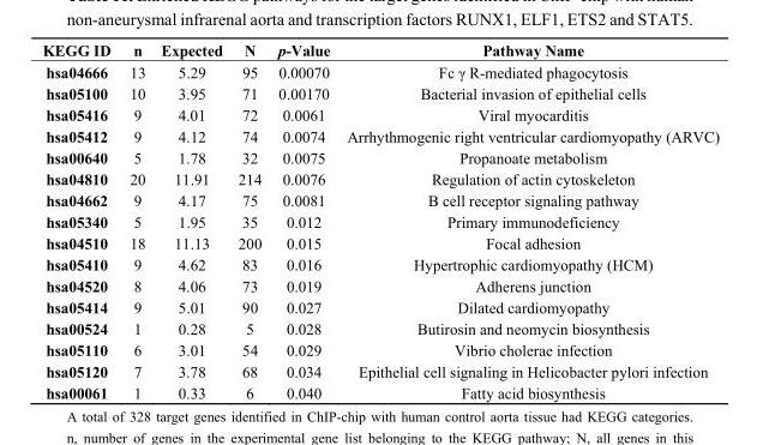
<table><thead><tr><td>KEGG ID</td><td>n</td><td>Expected</td><td>N</td><td>p-Value</td><td>Pathway Name</td></tr></thead><tbody><tr><td>hsa04666</td><td>13</td><td>5.29</td><td>95</td><td>0.00070</td><td>Fc γ R-mediated phagocytosis</td></tr><tr><td>hsa05100</td><td>10</td><td>3.95</td><td>71</td><td>0.00170</td><td>Bacterial invasion of epithelial cells</td></tr><tr><td>hsa05416</td><td>9</td><td>4.01</td><td>72</td><td>0.0061</td><td>Viral myocarditis</td></tr><tr><td>hsa05412</td><td>9</td><td>4.12</td><td>74</td><td>0.0074</td><td>Arrhythmogenic right ventricular cardiomyopathy (ARVC)</td></tr><tr><td>hsa00640</td><td>5</td><td>1.78</td><td>32</td><td>0.0075</td><td>Propanoate metabolism</td></tr><tr><td>hsa04810</td><td>20</td><td>11.91</td><td>214</td><td>0.0076</td><td>Regulation of actin cytoskeleton</td></tr><tr><td>hsa04662</td><td>9</td><td>4.17</td><td>75</td><td>0.0081</td><td>B cell receptor signaling pathway</td></tr><tr><td>hsa05340</td><td>5</td><td>1.95</td><td>35</td><td>0.012</td><td>Primary immunodeficiency</td></tr><tr><td>hsa04510</td><td>18</td><td>11.13</td><td>200</td><td>0.015</td><td>Focal adhesion</td></tr><tr><td>hsa05410</td><td>9</td><td>4.62</td><td>83</td><td>0.016</td><td>Hypertrophic cardiomyopathy (HCM)</td></tr><tr><td>hsa04520</td><td>8</td><td>4.06</td><td>73</td><td>0.019</td><td>Adherens junction</td></tr><tr><td>hsa05414</td><td>9</td><td>5.01</td><td>90</td><td>0.027</td><td>Dilated cardiomyopathy</td></tr><tr><td>hsa00524</td><td>1</td><td>0.28</td><td>5</td><td>0.028</td><td>Butirosin and neomycin biosynthesis</td></tr><tr><td>hsa05110</td><td>6</td><td>3.01</td><td>54</td><td>0.029</td><td>Vibrio cholerae infection</td></tr><tr><td>hsa05120</td><td>7</td><td>3.78</td><td>68</td><td>0.034</td><td>Epithelial cell signaling in Helicobacter pylori infection</td></tr><tr><td>hsa00061</td><td>1</td><td>0.33</td><td>6</td><td>0.040</td><td>Fatty acid biosynthesis</td></tr></tbody></table>